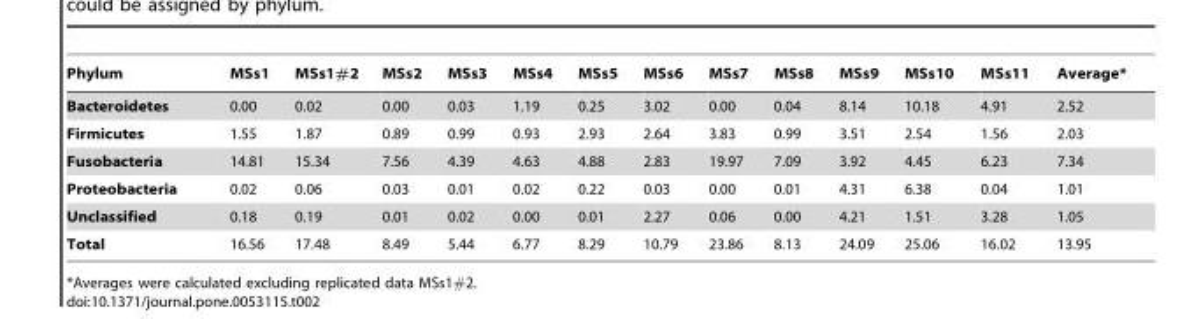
<table><thead><tr><td>Phylum</td><td>MSs1</td><td>MSs1#2</td><td>MSs2</td><td>MSs3</td><td>MSs4</td><td>MSs5</td><td>MSs6</td><td>MSs7</td><td>MSs8</td><td>MSs9</td><td>MSs10</td><td>MSs11</td><td>Average*</td></tr></thead><tbody><tr><td>Bacteroidetes</td><td>0.00</td><td>0.02</td><td>0.00</td><td>0.03</td><td>1.19</td><td>0.25</td><td>3.02</td><td>0.00</td><td>0.04</td><td>8.14</td><td>10.18</td><td>4.91</td><td>2.52</td></tr><tr><td>Firmicutes</td><td>1.55</td><td>1.87</td><td>0.89</td><td>0.99</td><td>0.93</td><td>2.93</td><td>2.64</td><td>3.83</td><td>0.99</td><td>3.51</td><td>2.54</td><td>1.56</td><td>2.03</td></tr><tr><td>Fusobacteria</td><td>14.81</td><td>15.34</td><td>7.56</td><td>4.39</td><td>4.63</td><td>4.88</td><td>2.83</td><td>19.97</td><td>7.09</td><td>3.92</td><td>4.45</td><td>6.23</td><td>7.34</td></tr><tr><td>Proteobacteria</td><td>0.02</td><td>0.06</td><td>0.03</td><td>0.01</td><td>0.02</td><td>0.22</td><td>0.03</td><td>0.00</td><td>0.01</td><td>4.31</td><td>6.38</td><td>0.04</td><td>1.01</td></tr><tr><td>Unclassified</td><td>0.18</td><td>0.19</td><td>0.01</td><td>0.02</td><td>0.00</td><td>0.01</td><td>2.27</td><td>0.06</td><td>0.00</td><td>4.21</td><td>1.51</td><td>3.28</td><td>1.05</td></tr><tr><td>Total</td><td>16.56</td><td>17.48</td><td>8.49</td><td>5.44</td><td>6.77</td><td>8.29</td><td>10.79</td><td>23.86</td><td>8.13</td><td>24.09</td><td>25.06</td><td>16.02</td><td>13.95</td></tr></tbody></table>